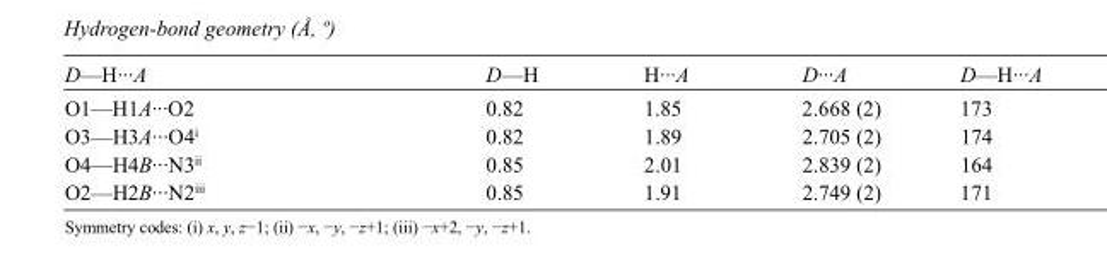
<table><tbody><tr><td>D—H···A</td><td>D—H</td><td>H···A</td><td>D···A</td><td>D—H···A</td></tr><tr><td>O1—H1A···O2</td><td>0.82</td><td>1.85</td><td>2.668 (2)</td><td>173</td></tr><tr><td>O3—H3A···O4<sup>i</sup></td><td>0.82</td><td>1.89</td><td>2.705 (2)</td><td>174</td></tr><tr><td>O4—H4B···N3<sup>ii</sup></td><td>0.85</td><td>2.01</td><td>2.839 (2)</td><td>164</td></tr><tr><td>O2—H2B···N2<sup>iii</sup></td><td>0.85</td><td>1.91</td><td>2.749 (2)</td><td>171</td></tr></tbody></table>